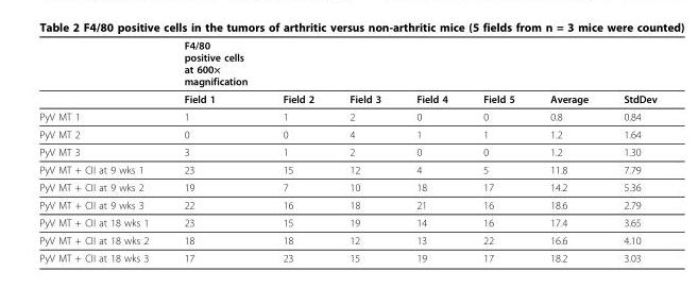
<table><thead><tr><td></td><td>F4/80 positive cells at 600× magnification</td><td></td><td></td><td></td><td></td><td></td><td></td></tr></thead><tbody><tr><td></td><td>Field 1</td><td>Field 2</td><td>Field 3</td><td>Field 4</td><td>Field 5</td><td>Average</td><td>StdDev</td></tr><tr><td>PyV MT 1</td><td>1</td><td>1</td><td>2</td><td>0</td><td>0</td><td>0.8</td><td>0.84</td></tr><tr><td>PyV MT 2</td><td>0</td><td>0</td><td>4</td><td>1</td><td>1</td><td>1.2</td><td>1.64</td></tr><tr><td>PyV MT 3</td><td>3</td><td>1</td><td>2</td><td>0</td><td>0</td><td>1.2</td><td>1.30</td></tr><tr><td>PyV MT + CII at 9 wks 1</td><td>23</td><td>15</td><td>12</td><td>4</td><td>5</td><td>11.8</td><td>7.79</td></tr><tr><td>PyV MT + CII at 9 wks 2</td><td>19</td><td>7</td><td>10</td><td>18</td><td>17</td><td>14.2</td><td>5.36</td></tr><tr><td>PyV MT + CII at 9 wks 3</td><td>22</td><td>16</td><td>18</td><td>21</td><td>16</td><td>18.6</td><td>2.79</td></tr><tr><td>PyV MT + CII at 18 wks 1</td><td>23</td><td>15</td><td>19</td><td>14</td><td>16</td><td>17.4</td><td>3.65</td></tr><tr><td>PyV MT + CII at 18 wks 2</td><td>18</td><td>18</td><td>12</td><td>13</td><td>22</td><td>16.6</td><td>4.10</td></tr><tr><td>PyV MT + CII at 18 wks 3</td><td>17</td><td>23</td><td>15</td><td>19</td><td>17</td><td>18.2</td><td>3.03</td></tr></tbody></table>